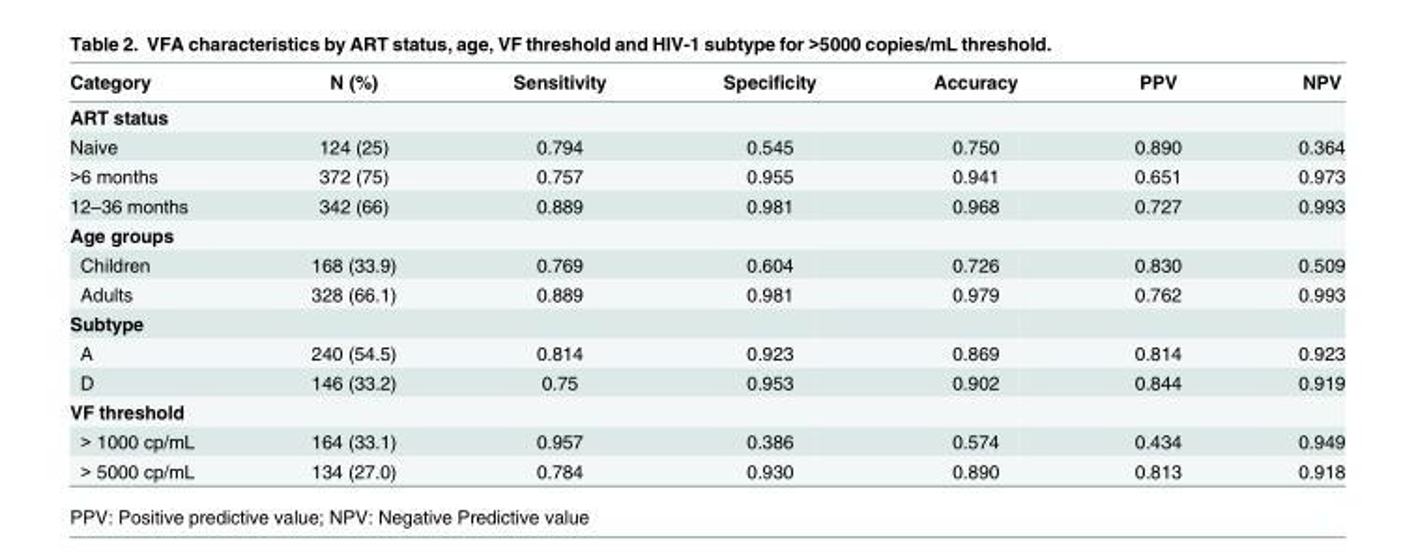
<table><thead><tr><td>Category</td><td>N (%)</td><td>Sensitivity</td><td>Specificity</td><td>Accuracy</td><td>PPV</td><td>NPV</td></tr></thead><tbody><tr><td colspan="7">ART status</td></tr><tr><td>Naive</td><td>124 (25)</td><td>0.794</td><td>0.545</td><td>0.750</td><td>0.890</td><td>0.364</td></tr><tr><td>&gt;6 months</td><td>372 (75)</td><td>0.757</td><td>0.955</td><td>0.941</td><td>0.651</td><td>0.973</td></tr><tr><td>12–36 months</td><td>342 (66)</td><td>0.889</td><td>0.981</td><td>0.968</td><td>0.727</td><td>0.993</td></tr><tr><td colspan="7">Age groups</td></tr><tr><td>Children</td><td>168 (33.9)</td><td>0.769</td><td>0.604</td><td>0.726</td><td>0.830</td><td>0.509</td></tr><tr><td>Adults</td><td>328 (66.1)</td><td>0.889</td><td>0.981</td><td>0.979</td><td>0.762</td><td>0.993</td></tr><tr><td colspan="7">Subtype</td></tr><tr><td>A</td><td>240 (54.5)</td><td>0.814</td><td>0.923</td><td>0.869</td><td>0.814</td><td>0.923</td></tr><tr><td>D</td><td>146 (33.2)</td><td>0.75</td><td>0.953</td><td>0.902</td><td>0.844</td><td>0.919</td></tr><tr><td colspan="7">VF threshold</td></tr><tr><td>&gt; 1000 cp/mL</td><td>164 (33.1)</td><td>0.957</td><td>0.386</td><td>0.574</td><td>0.434</td><td>0.949</td></tr><tr><td>&gt; 5000 cp/mL</td><td>134 (27.0)</td><td>0.784</td><td>0.930</td><td>0.890</td><td>0.813</td><td>0.918</td></tr></tbody></table>